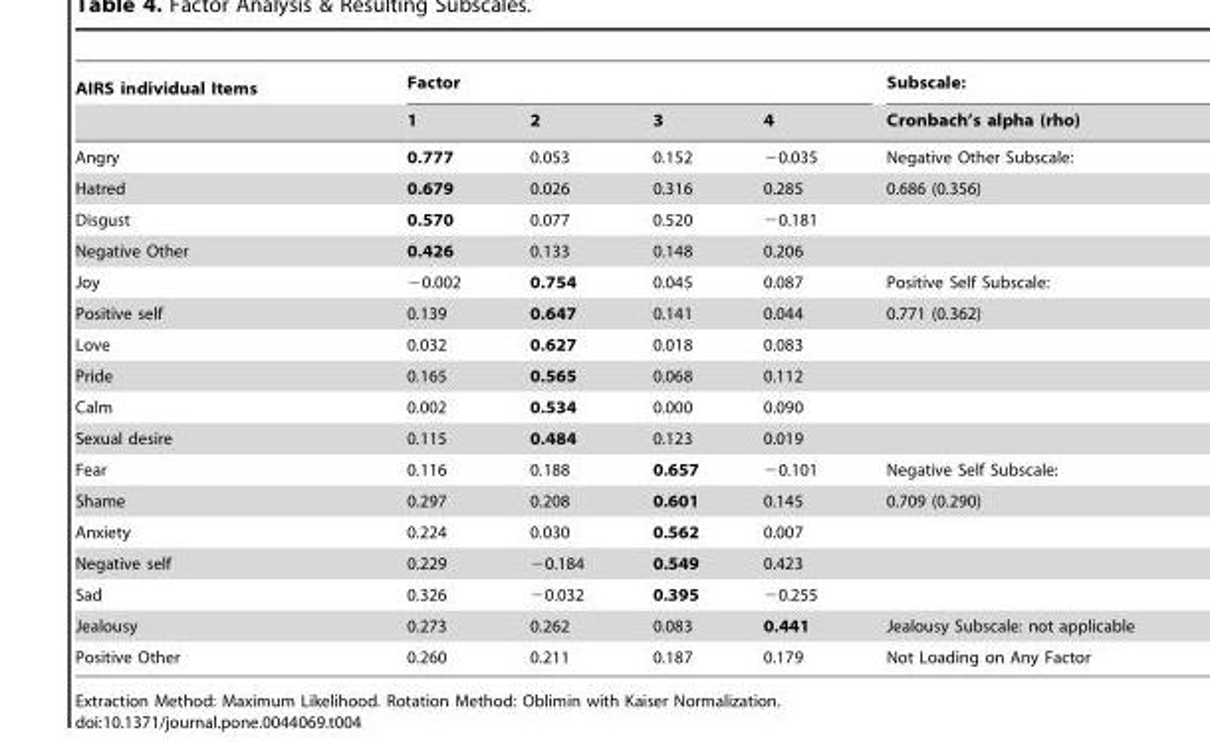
<table><thead><tr><td rowspan="2">AIRS individual Items</td><td colspan="4">Factor</td><td rowspan="2">Subscale: Cronbach’s alpha (rho)</td></tr><tr><td>1</td><td>2</td><td>3</td><td>4</td></tr></thead><tbody><tr><td>Angry</td><td>0.777</td><td>0.053</td><td>0.152</td><td>−0.035</td><td>Negative Other Subscale:</td></tr><tr><td>Hatred</td><td>0.679</td><td>0.026</td><td>0.316</td><td>0.285</td><td>0.686 (0.356)</td></tr><tr><td>Disgust</td><td>0.570</td><td>0.077</td><td>0.520</td><td>−0.181</td><td></td></tr><tr><td>Negative Other</td><td>0.426</td><td>0.133</td><td>0.148</td><td>0.206</td><td></td></tr><tr><td>Joy</td><td>−0.002</td><td>0.754</td><td>0.045</td><td>0.087</td><td>Positive Self Subscale:</td></tr><tr><td>Positive self</td><td>0.139</td><td>0.647</td><td>0.141</td><td>0.044</td><td>0.771 (0.362)</td></tr><tr><td>Love</td><td>0.032</td><td>0.627</td><td>0.018</td><td>0.083</td><td></td></tr><tr><td>Pride</td><td>0.165</td><td>0.565</td><td>0.068</td><td>0.112</td><td></td></tr><tr><td>Calm</td><td>0.002</td><td>0.534</td><td>0.000</td><td>0.090</td><td></td></tr><tr><td>Sexual desire</td><td>0.115</td><td>0.484</td><td>0.123</td><td>0.019</td><td></td></tr><tr><td>Fear</td><td>0.116</td><td>0.188</td><td>0.657</td><td>−0.101</td><td>Negative Self Subscale:</td></tr><tr><td>Shame</td><td>0.297</td><td>0.208</td><td>0.601</td><td>0.145</td><td>0.709 (0.290)</td></tr><tr><td>Anxiety</td><td>0.224</td><td>0.030</td><td>0.562</td><td>0.007</td><td></td></tr><tr><td>Negative self</td><td>0.229</td><td>−0.184</td><td>0.549</td><td>0.423</td><td></td></tr><tr><td>Sad</td><td>0.326</td><td>−0.032</td><td>0.395</td><td>−0.255</td><td></td></tr><tr><td>Jealousy</td><td>0.273</td><td>0.262</td><td>0.083</td><td>0.441</td><td>Jealousy Subscale: not applicable</td></tr><tr><td>Positive Other</td><td>0.260</td><td>0.211</td><td>0.187</td><td>0.179</td><td>Not Loading on Any Factor</td></tr></tbody></table>